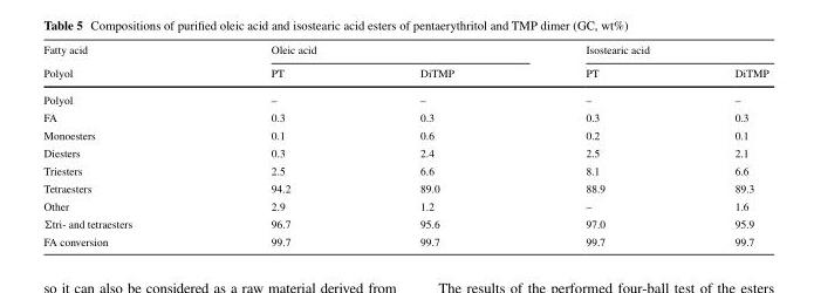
<table><thead><tr><td rowspan="2">Fatty acid Polyol</td><td colspan="2">Oleic acid</td><td colspan="2">Isostearic acid</td></tr><tr><td>PT</td><td>DiTMP</td><td>PT</td><td>DiTMP</td></tr></thead><tbody><tr><td>Polyol</td><td>–</td><td>–</td><td>–</td><td>–</td></tr><tr><td>FA</td><td>0.3</td><td>0.3</td><td>0.3</td><td>0.3</td></tr><tr><td>Monoesters</td><td>0.1</td><td>0.6</td><td>0.2</td><td>0.1</td></tr><tr><td>Diesters</td><td>0.3</td><td>2.4</td><td>2.5</td><td>2.1</td></tr><tr><td>Triesters</td><td>2.5</td><td>6.6</td><td>8.1</td><td>6.6</td></tr><tr><td>Tetraesters</td><td>94.2</td><td>89.0</td><td>88.9</td><td>89.3</td></tr><tr><td>Other</td><td>2.9</td><td>1.2</td><td>–</td><td>1.6</td></tr><tr><td>Σtri- and tetraesters</td><td>96.7</td><td>95.6</td><td>97.0</td><td>95.9</td></tr><tr><td>FA conversion</td><td>99.7</td><td>99.7</td><td>99.7</td><td>99.7</td></tr></tbody></table>